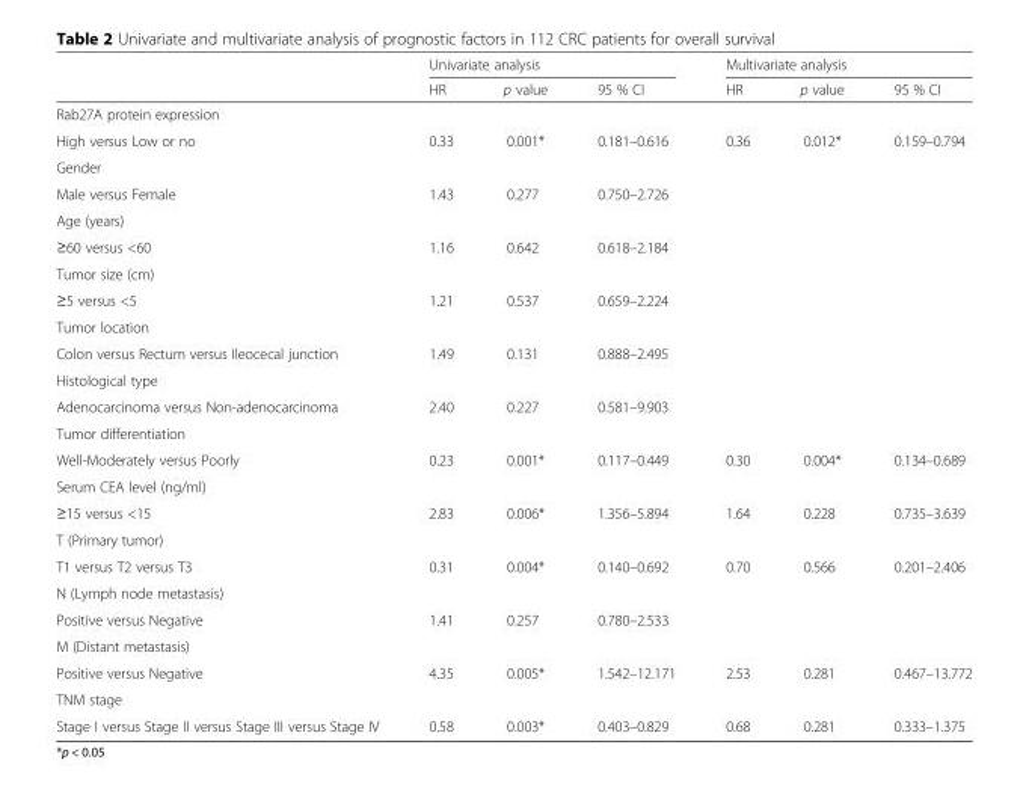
<table><thead><tr><td rowspan="2"></td><td colspan="3">Univariate analysis</td><td colspan="3">Multivariate analysis</td></tr><tr><td>HR</td><td>p value</td><td>95 % CI</td><td>HR</td><td>p value</td><td>95 % CI</td></tr></thead><tbody><tr><td colspan="7">Rab27A protein expression</td></tr><tr><td>High versus Low or no</td><td>0.33</td><td>0.001*</td><td>0.181–0.616</td><td>0.36</td><td>0.012*</td><td>0.159–0.794</td></tr><tr><td colspan="7">Gender</td></tr><tr><td>Male versus Female</td><td>1.43</td><td>0.277</td><td>0.750–2.726</td><td></td><td></td><td></td></tr><tr><td colspan="7">Age (years)</td></tr><tr><td>≥60 versus &lt;60</td><td>1.16</td><td>0.642</td><td>0.618–2.184</td><td></td><td></td><td></td></tr><tr><td colspan="7">Tumor size (cm)</td></tr><tr><td>≥5 versus &lt;5</td><td>1.21</td><td>0.537</td><td>0.659–2.224</td><td></td><td></td><td></td></tr><tr><td colspan="7">Tumor location</td></tr><tr><td>Colon versus Rectum versus Ileocecal junction</td><td>1.49</td><td>0.131</td><td>0.888–2.495</td><td></td><td></td><td></td></tr><tr><td colspan="7">Histological type</td></tr><tr><td>Adenocarcinoma versus Non-adenocarcinoma</td><td>2.40</td><td>0.227</td><td>0.581–9.903</td><td></td><td></td><td></td></tr><tr><td colspan="7">Tumor differentiation</td></tr><tr><td>Well-Moderately versus Poorly</td><td>0.23</td><td>0.001*</td><td>0.117–0.449</td><td>0.30</td><td>0.004*</td><td>0.134–0.689</td></tr><tr><td colspan="7">Serum CEA level (ng/ml)</td></tr><tr><td>≥15 versus &lt;15</td><td>2.83</td><td>0.006*</td><td>1.356–5.894</td><td>1.64</td><td>0.228</td><td>0.735–3.639</td></tr><tr><td colspan="7">T (Primary tumor)</td></tr><tr><td>T1 versus T2 versus T3</td><td>0.31</td><td>0.004*</td><td>0.140–0.692</td><td>0.70</td><td>0.566</td><td>0.201–2.406</td></tr><tr><td colspan="7">N (Lymph node metastasis)</td></tr><tr><td>Positive versus Negative</td><td>1.41</td><td>0.257</td><td>0.780–2.533</td><td></td><td></td><td></td></tr><tr><td colspan="7">M (Distant metastasis)</td></tr><tr><td>Positive versus Negative</td><td>4.35</td><td>0.005*</td><td>1.542–12.171</td><td>2.53</td><td>0.281</td><td>0.467–13.772</td></tr><tr><td colspan="7">TNM stage</td></tr><tr><td>Stage I versus Stage II versus Stage III versus Stage IV</td><td>0.58</td><td>0.003*</td><td>0.403–0.829</td><td>0.68</td><td>0.281</td><td>0.333–1.375</td></tr></tbody></table>